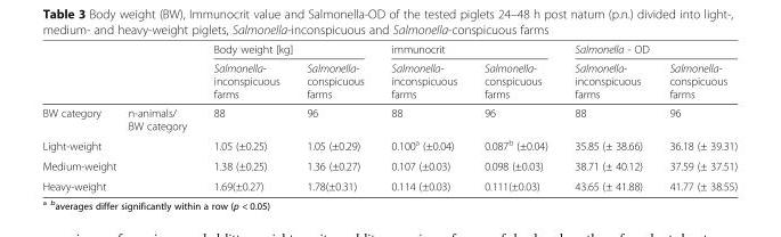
<table><thead><tr><td rowspan="2"></td><td rowspan="2"></td><td colspan="2">Body weight [kg]</td><td colspan="2">immunocrit</td><td colspan="2">Salmonella - OD</td></tr><tr><td>Salmonella- inconspicuous farms</td><td>Salmonella- conspicuous farms</td><td>Salmonella- inconspicuous farms</td><td>Salmonella- conspicuous farms</td><td>Salmonella- inconspicuous farms</td><td>Salmonella- conspicuous farms</td></tr></thead><tbody><tr><td>BW category</td><td>n-animals/ BW category</td><td>88</td><td>96</td><td>88</td><td>96</td><td>88</td><td>96</td></tr><tr><td colspan="2">Light-weight</td><td>1.05 (±0.25)</td><td>1.05 (±0.29)</td><td>0.100<sup>a</sup> (±0.04)</td><td>0.087<sup>b</sup> (±0.04)</td><td>35.85 (± 38.66)</td><td>36.18 (± 39.31)</td></tr><tr><td colspan="2">Medium-weight</td><td>1.38 (±0.25)</td><td>1.36 (±0.27)</td><td>0.107 (±0.03)</td><td>0.098 (±0.03)</td><td>38.71 (± 40.12)</td><td>37.59 (± 37.51)</td></tr><tr><td colspan="2">Heavy-weight</td><td>1.69(±0.27)</td><td>1.78(±0.31)</td><td>0.114 (±0.03)</td><td>0.111(±0.03)</td><td>43.65 (± 41.88)</td><td>41.77 (± 38.55)</td></tr></tbody></table>